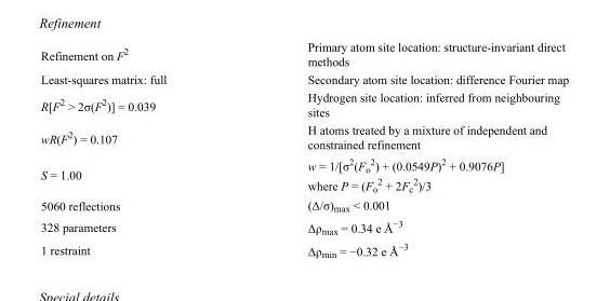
<table><tbody><tr><td>Refinement on F<sup>2</sup></td><td>Primary atom site location: structure-invariant direct methods</td></tr><tr><td>Least-squares matrix: full</td><td>Secondary atom site location: difference Fourier map</td></tr><tr><td>R[F<sup>2</sup> &gt; 2σ(F<sup>2</sup>)] = 0.039</td><td>Hydrogen site location: inferred from neighbouring sites</td></tr><tr><td>wR(F<sup>2</sup>) = 0.107</td><td>H atoms treated by a mixture of independent and constrained refinement</td></tr><tr><td>S = 1.00</td><td>w = 1/[σ<sup>2</sup>(F<sub>o</sub> <sup>2</sup>) + (0.0549P)<sup>2</sup> + 0.9076P] where P = (F<sub>o</sub> <sup>2</sup> + 2F<sub>c</sub> <sup>2</sup>)/3</td></tr><tr><td>5060 reflections</td><td>(Δ/σ)<sub>max</sub> &lt; 0.001</td></tr><tr><td>328 parameters</td><td>Δρ<sub>max</sub> = 0.34 e Å<sup>−3</sup></td></tr><tr><td>1 restraint</td><td>Δρ<sub>min</sub> = −0.32 e Å<sup>−3</sup></td></tr></tbody></table>